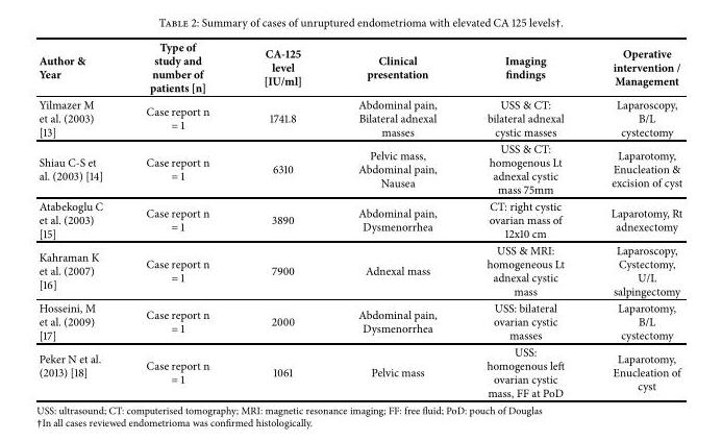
<table><thead><tr><td>Author &amp; Year</td><td>Type of study and number of patients [n]</td><td>CA-125 level [IU/ml]</td><td>Clinical presentation</td><td>Imaging findings</td><td>Operative intervention / Management</td></tr></thead><tbody><tr><td>Yilmazer M et al. (2003) [13]</td><td>Case report n = 1</td><td>1741.8</td><td>Abdominal pain, Bilateral adnexal masses</td><td>USS &amp; CT: bilateral adnexal cystic masses</td><td>Laparoscopy, B/L cystectomy</td></tr><tr><td>Shiau C-S et al. (2003) [14]</td><td>Case report n = 1</td><td>6310</td><td>Pelvic mass, Abdominal pain, Nausea</td><td>USS &amp; CT: homogenous Lt adnexal cystic mass 75mm</td><td>Laparotomy, Enucleation &amp; excision of cyst</td></tr><tr><td>Atabekoglu C et al. (2003) [15]</td><td>Case report n = 1</td><td>3890</td><td>Abdominal pain, Dysmenorrhea</td><td>CT: right cystic ovarian mass of 12x10 cm</td><td>Laparotomy, Rt adnexectomy</td></tr><tr><td>Kahraman K et al. (2007) [16]</td><td>Case report n = 1</td><td>7900</td><td>Adnexal mass</td><td>USS &amp; MRI: homogeneous Lt adnexal cystic mass</td><td>Laparoscopy, Cystectomy, U/L salpingectomy</td></tr><tr><td>Hosseini, M et al. (2009) [17]</td><td>Case report n = 1</td><td>2000</td><td>Abdominal pain, Dysmenorrhea</td><td>USS: bilateral ovarian cystic masses</td><td>Laparotomy, B/L cystectomy</td></tr><tr><td>Peker N et al. (2013) [18]</td><td>Case report n = 1</td><td>1061</td><td>Pelvic mass</td><td>USS: homogenous left ovarian cystic mass, FF at PoD</td><td>Laparotomy, Enucleation of cyst</td></tr></tbody></table>